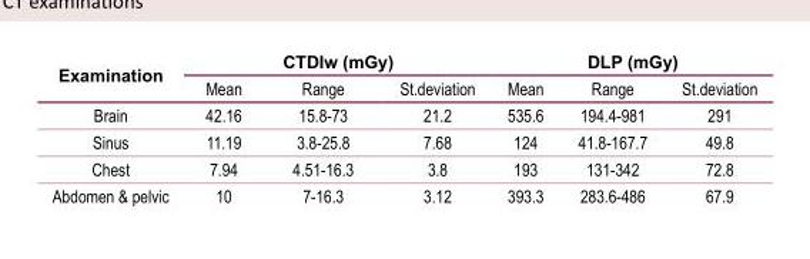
<table><thead><tr><td rowspan="2">Examination</td><td colspan="3">CTDIw (mGy)</td><td colspan="3">DLP (mGy)</td></tr><tr><td>Mean</td><td>Range</td><td>St.deviation</td><td>Mean</td><td>Range</td><td>St.deviation</td></tr></thead><tbody><tr><td>Brain</td><td>42.16</td><td>15.8-73</td><td>21.2</td><td>535.6</td><td>194.4-981</td><td>291</td></tr><tr><td>Sinus</td><td>11.19</td><td>3.8-25.8</td><td>7.68</td><td>124</td><td>41.8-167.7</td><td>49.8</td></tr><tr><td>Chest</td><td>7.94</td><td>4.51-16.3</td><td>3.8</td><td>193</td><td>131-342</td><td>72.8</td></tr><tr><td>Abdomen &amp; pelvic</td><td>10</td><td>7-16.3</td><td>3.12</td><td>393.3</td><td>283.6-486</td><td>67.9</td></tr></tbody></table>